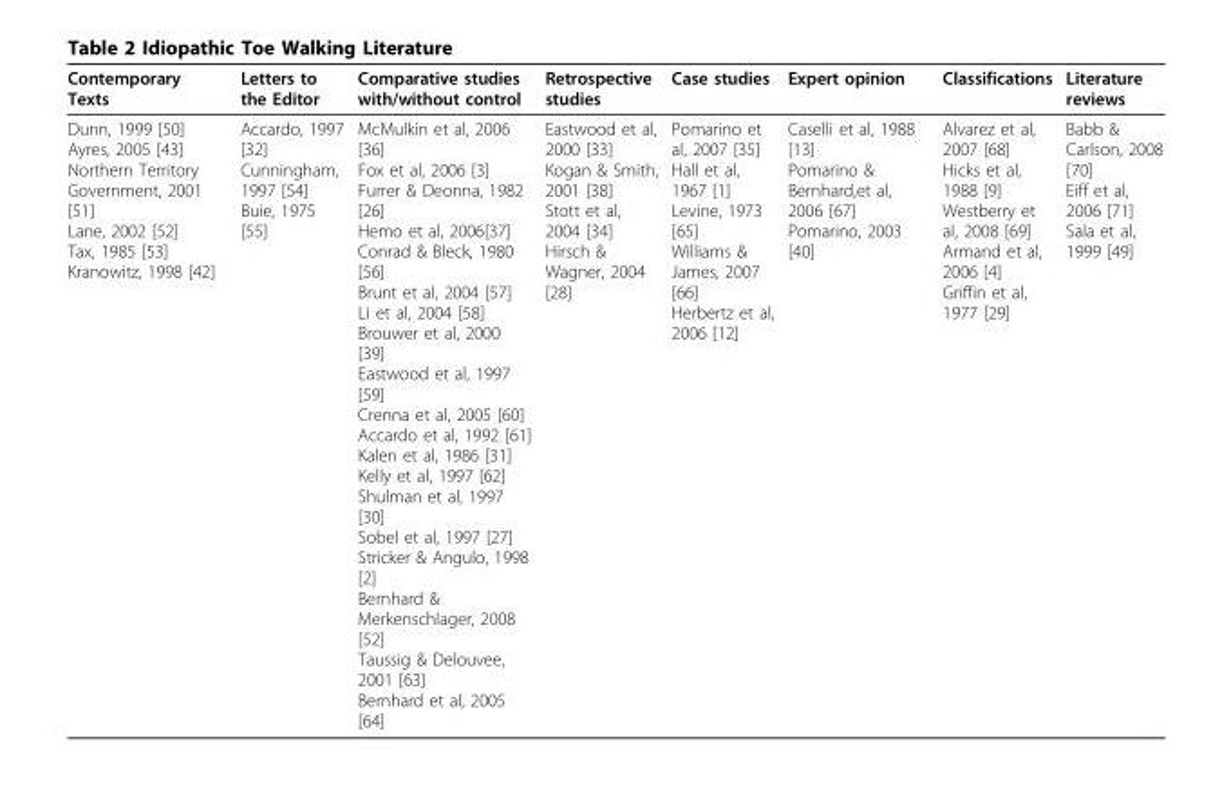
<table><thead><tr><td>Contemporary Texts</td><td>Letters to the Editor</td><td>Comparative studies with/without control</td><td>Retrospective studies</td><td>Case studies</td><td>Expert opinion</td><td>Classifications</td><td>Literature reviews</td></tr></thead><tbody><tr><td>Dunn, 1999 [50] Ayres, 2005 [43] Northern Territory Government, 2001 [51] Lane, 2002 [52] Tax, 1985 [53] Kranowitz, 1998 [42]</td><td>Accardo, 1997 [32] Cunningham, 1997 [54] Buie, 1975 [55]</td><td>McMulkin et al, 2006 [36] Fox et al, 2006 [3] Furrer &amp; Deonna, 1982 [26] Hemo et al, 2006[37] Conrad &amp; Bleck, 1980 [56] Brunt et al, 2004 [57] Li et al, 2004 [58] Brouwer et al, 2000 [39] Eastwood et al, 1997 [59] Crenna et al, 2005 [60] Accardo et al, 1992 [61] Kalen et al, 1986 [31] Kelly et al, 1997 [62] Shulman et al, 1997 [30] Sobel et al, 1997 [27] Stricker &amp; Angulo, 1998 [2] Bernhard &amp; Merkenschlager, 2008 [52] Taussig &amp; Delouvee, 2001 [63] Bernhard et al, 2005 [64]</td><td>Eastwood et al, 2000 [33] Kogan &amp; Smith, 2001 [38] Stott et al, 2004 [34] Hirsch &amp; Wagner, 2004 [28]</td><td>Pomarino et al, 2007 [35] Hall et al, 1967 [1] Levine, 1973 [65] Williams &amp; James, 2007 [66] Herbertz et al, 2006 [12]</td><td>Caselli et al, 1988 [13] Pomarino &amp; Bernhard,et al, 2006 [67] Pomarino, 2003 [40]</td><td>Alvarez et al, 2007 [68] Hicks et al, 1988 [9] Westberry et al, 2008 [69] Armand et al, 2006 [4] Griffin et al, 1977 [29]</td><td>Babb &amp; Carlson, 2008 [70] Eiff et al, 2006 [71] Sala et al, 1999 [49]</td></tr></tbody></table>